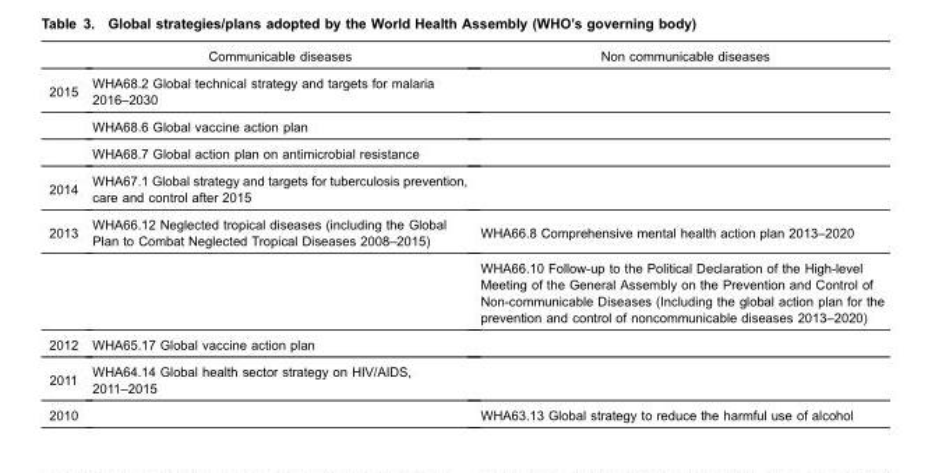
<table><thead><tr><td></td><td>Communicable diseases</td><td>Non communicable diseases</td></tr></thead><tbody><tr><td rowspan="3">2015</td><td>WHA68.2 Global technical strategy and targets for malaria 2016–2030</td><td></td></tr><tr><td>WHA68.6 Global vaccine action plan</td><td></td></tr><tr><td>WHA68.7 Global action plan on antimicrobial resistance</td><td></td></tr><tr><td>2014</td><td>WHA67.1 Global strategy and targets for tuberculosis prevention, care and control after 2015</td><td></td></tr><tr><td rowspan="2">2013</td><td>WHA66.12 Neglected tropical diseases (including the Global Plan to Combat Neglected Tropical Diseases 2008–2015)</td><td>WHA66.8 Comprehensive mental health action plan 2013–2020</td></tr><tr><td></td><td>WHA66.10 Follow-up to the Political Declaration of the High-level Meeting of the General Assembly on the Prevention and Control of Non-communicable Diseases (Including the global action plan for the prevention and control of noncommunicable diseases 2013–2020)</td></tr><tr><td>2012</td><td>WHA65.17 Global vaccine action plan</td><td></td></tr><tr><td>2011</td><td>WHA64.14 Global health sector strategy on HIV/AIDS, 2011–2015</td><td></td></tr><tr><td>2010</td><td></td><td>WHA63.13 Global strategy to reduce the harmful use of alcohol</td></tr></tbody></table>